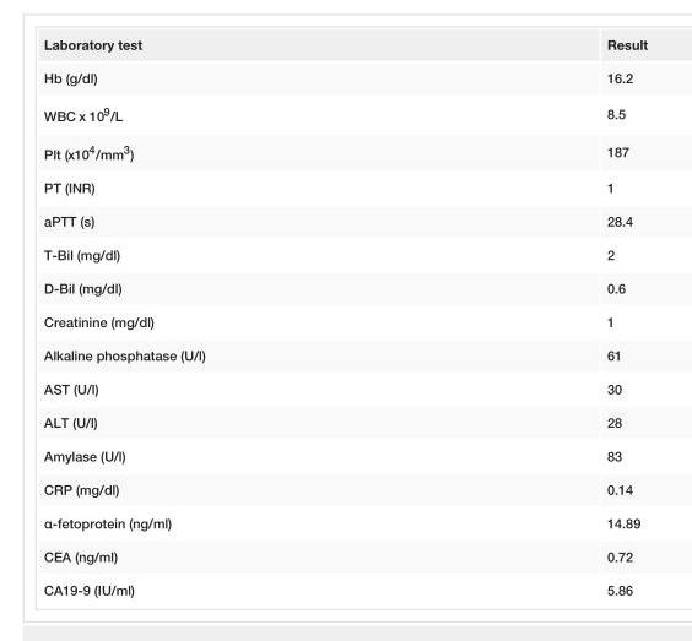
<table><tbody><tr><td>Laboratory test</td><td>Result</td></tr><tr><td>Hb (g/dl)</td><td>16.2</td></tr><tr><td>WBC x 10<sup>9</sup>/L</td><td>8.5</td></tr><tr><td>Plt (x10<sup>4</sup>/mm<sup>3</sup>)</td><td>187</td></tr><tr><td>PT (INR)</td><td>1</td></tr><tr><td>aPTT (s)</td><td>28.4</td></tr><tr><td>T-Bil (mg/dl)</td><td>2</td></tr><tr><td>D-Bil (mg/dl)</td><td>0.6</td></tr><tr><td>Creatinine (mg/dl)</td><td>1</td></tr><tr><td>Alkaline phosphatase (U/l)</td><td>61</td></tr><tr><td>AST (U/l)</td><td>30</td></tr><tr><td>ALT (U/l)</td><td>28</td></tr><tr><td>Amylase (U/l)</td><td>83</td></tr><tr><td>CRP (mg/dl)</td><td>0.14</td></tr><tr><td>α-fetoprotein (ng/ml)</td><td>14.89</td></tr><tr><td>CEA (ng/ml)</td><td>0.72</td></tr><tr><td>CA19-9 (IU/ml)</td><td>5.86</td></tr></tbody></table>